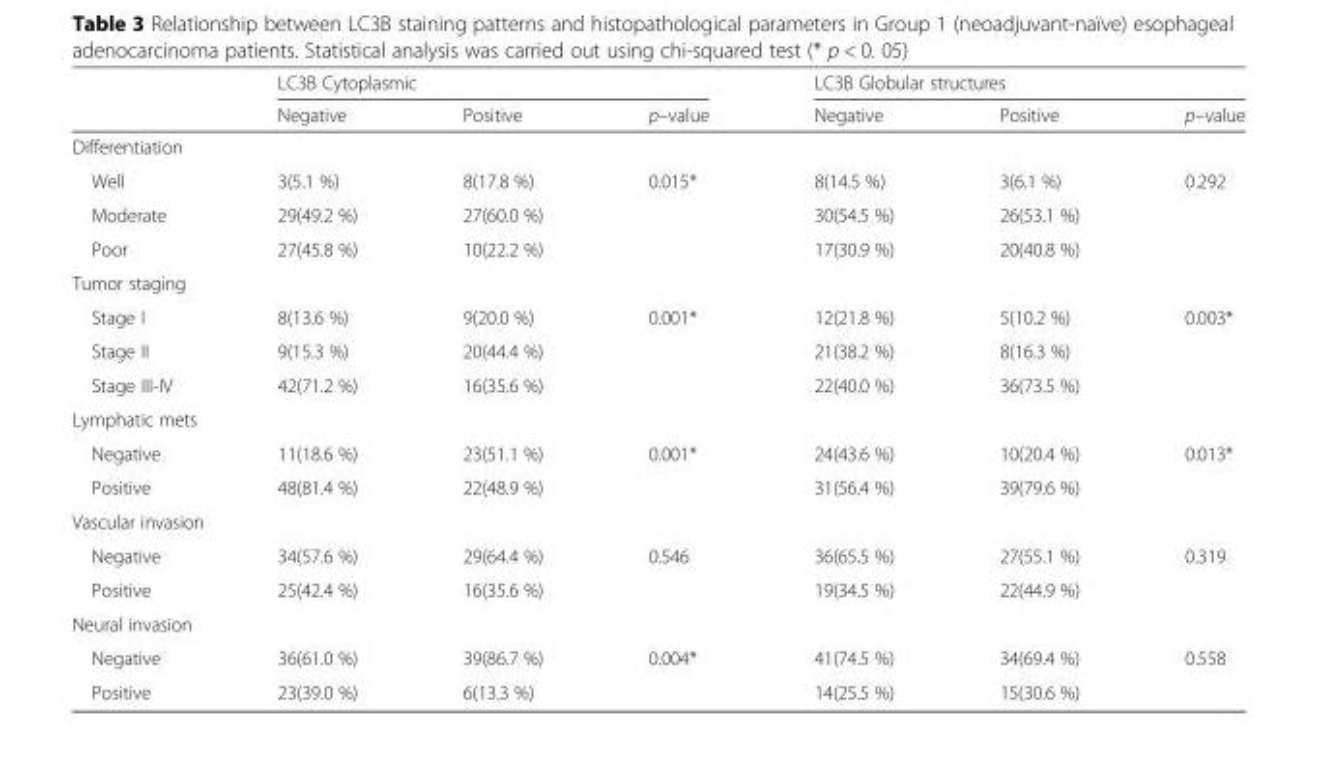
<table><thead><tr><td rowspan="2"></td><td colspan="3">LC3B Cytoplasmic</td><td colspan="3">LC3B Globular structures</td></tr><tr><td>Negative</td><td>Positive</td><td>p–value</td><td>Negative</td><td>Positive</td><td>p–value</td></tr></thead><tbody><tr><td colspan="7">Differentiation</td></tr><tr><td>Well</td><td>3(5.1 %)</td><td>8(17.8 %)</td><td rowspan="3">0.015*</td><td>8(14.5 %)</td><td>3(6.1 %)</td><td rowspan="3">0.292</td></tr><tr><td>Moderate</td><td>29(49.2 %)</td><td>27(60.0 %)</td><td>30(54.5 %)</td><td>26(53.1 %)</td></tr><tr><td>Poor</td><td>27(45.8 %)</td><td>10(22.2 %)</td><td>17(30.9 %)</td><td>20(40.8 %)</td></tr><tr><td colspan="7">Tumor staging</td></tr><tr><td>Stage I</td><td>8(13.6 %)</td><td>9(20.0 %)</td><td rowspan="3">0.001*</td><td>12(21.8 %)</td><td>5(10.2 %)</td><td rowspan="3">0.003*</td></tr><tr><td>Stage II</td><td>9(15.3 %)</td><td>20(44.4 %)</td><td>21(38.2 %)</td><td>8(16.3 %)</td></tr><tr><td>Stage III-IV</td><td>42(71.2 %)</td><td>16(35.6 %)</td><td>22(40.0 %)</td><td>36(73.5 %)</td></tr><tr><td colspan="7">Lymphatic mets</td></tr><tr><td>Negative</td><td>11(18.6 %)</td><td>23(51.1 %)</td><td rowspan="2">0.001*</td><td>24(43.6 %)</td><td>10(20.4 %)</td><td rowspan="2">0.013*</td></tr><tr><td>Positive</td><td>48(81.4 %)</td><td>22(48.9 %)</td><td>31(56.4 %)</td><td>39(79.6 %)</td></tr><tr><td colspan="7">Vascular invasion</td></tr><tr><td>Negative</td><td>34(57.6 %)</td><td>29(64.4 %)</td><td rowspan="2">0.546</td><td>36(65.5 %)</td><td>27(55.1 %)</td><td rowspan="2">0.319</td></tr><tr><td>Positive</td><td>25(42.4 %)</td><td>16(35.6 %)</td><td>19(34.5 %)</td><td>22(44.9 %)</td></tr><tr><td colspan="7">Neural invasion</td></tr><tr><td>Negative</td><td>36(61.0 %)</td><td>39(86.7 %)</td><td rowspan="2">0.004*</td><td>41(74.5 %)</td><td>34(69.4 %)</td><td rowspan="2">0.558</td></tr><tr><td>Positive</td><td>23(39.0 %)</td><td>6(13.3 %)</td><td>14(25.5 %)</td><td>15(30.6 %)</td></tr></tbody></table>